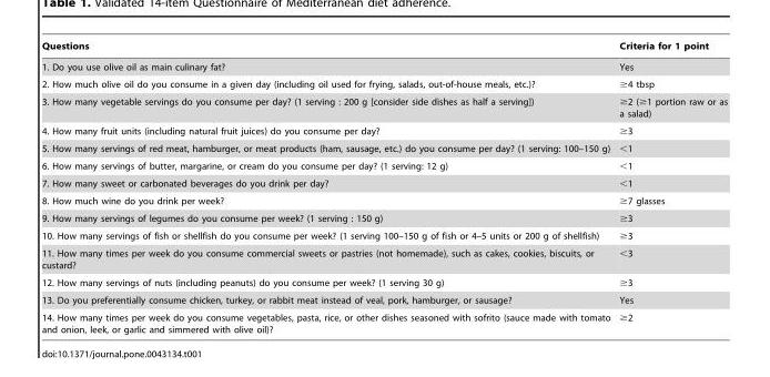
<table><thead><tr><td>Questions</td><td>Criteria for 1 point</td></tr></thead><tbody><tr><td>1. Do you use olive oil as main culinary fat?</td><td>Yes</td></tr><tr><td>2. How much olive oil do you consume in a given day (including oil used for frying, salads, out-of-house meals, etc.)?</td><td>≥4 tbsp</td></tr><tr><td>3. How many vegetable servings do you consume per day? (1 serving : 200 g [consider side dishes as half a serving])</td><td>≥2 (≥1 portion raw or as a salad)</td></tr><tr><td>4. How many fruit units (including natural fruit juices) do you consume per day?</td><td>≥3</td></tr><tr><td>5. How many servings of red meat, hamburger, or meat products (ham, sausage, etc.) do you consume per day? (1 serving: 100–150 g)</td><td>&lt;1</td></tr><tr><td>6. How many servings of butter, margarine, or cream do you consume per day? (1 serving: 12 g)</td><td>&lt;1</td></tr><tr><td>7. How many sweet or carbonated beverages do you drink per day?</td><td>&lt;1</td></tr><tr><td>8. How much wine do you drink per week?</td><td>≥7 glasses</td></tr><tr><td>9. How many servings of legumes do you consume per week? (1 serving : 150 g)</td><td>≥3</td></tr><tr><td>10. How many servings of fish or shellfish do you consume per week? (1 serving 100–150 g of fish or 4–5 units or 200 g of shellfish)</td><td>≥3</td></tr><tr><td>11. How many times per week do you consume commercial sweets or pastries (not homemade), such as cakes, cookies, biscuits, or custard?</td><td>&lt;3</td></tr><tr><td>12. How many servings of nuts (including peanuts) do you consume per week? (1 serving 30 g)</td><td>≥3</td></tr><tr><td>13. Do you preferentially consume chicken, turkey, or rabbit meat instead of veal, pork, hamburger, or sausage?</td><td>Yes</td></tr><tr><td>14. How many times per week do you consume vegetables, pasta, rice, or other dishes seasoned with sofrito (sauce made with tomato and onion, leek, or garlic and simmered with olive oil)?</td><td>≥2</td></tr></tbody></table>